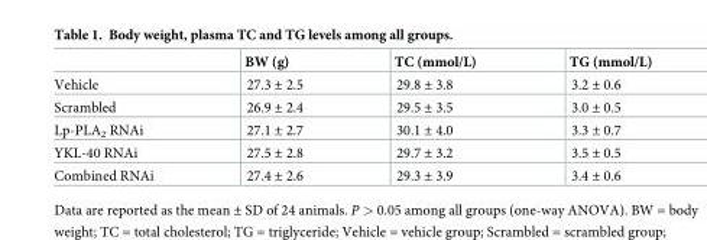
<table><thead><tr><td></td><td>BW (g)</td><td>TC (mmol/L)</td><td>TG (mmol/L)</td></tr></thead><tbody><tr><td>Vehicle</td><td>27.3 ± 2.5</td><td>29.8 ± 3.8</td><td>3.2 ± 0.6</td></tr><tr><td>Scrambled</td><td>26.9 ± 2.4</td><td>29.5 ± 3.5</td><td>3.0 ± 0.5</td></tr><tr><td>Lp-PLA<sub>2</sub> RNAi</td><td>27.1 ± 2.7</td><td>30.1 ± 4.0</td><td>3.3 ± 0.7</td></tr><tr><td>YKL-40 RNAi</td><td>27.5 ± 2.8</td><td>29.7 ± 3.2</td><td>3.5 ± 0.5</td></tr><tr><td>Combined RNAi</td><td>27.4 ± 2.6</td><td>29.3 ± 3.9</td><td>3.4 ± 0.6</td></tr></tbody></table>